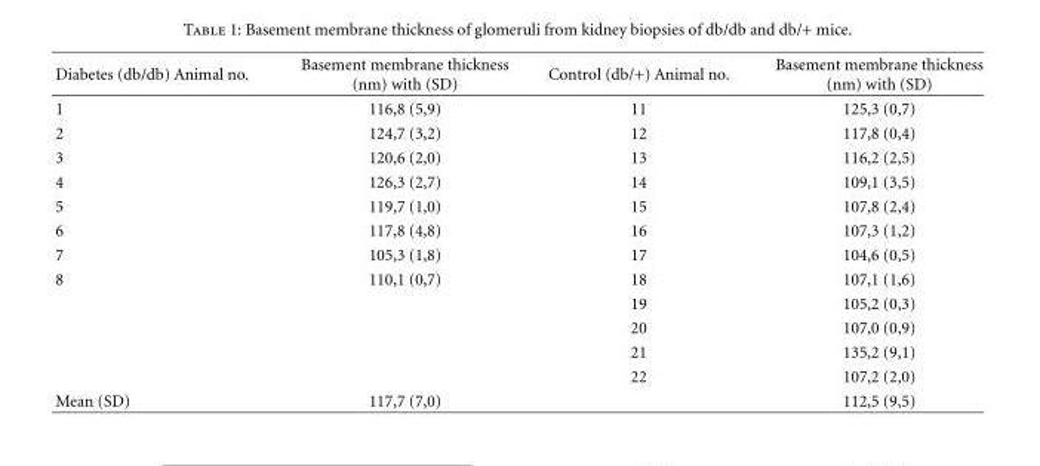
<table><thead><tr><td>Diabetes (db/db) Animal no.</td><td>Basement membrane thickness (nm) with (SD)</td><td>Control (db/+) Animal no.</td><td>Basement membrane thickness (nm) with (SD)</td></tr></thead><tbody><tr><td>1</td><td>116,8 (5,9)</td><td>11</td><td>125,3 (0,7)</td></tr><tr><td>2</td><td>124,7 (3,2)</td><td>12</td><td>117,8 (0,4)</td></tr><tr><td>3</td><td>120,6 (2,0)</td><td>13</td><td>116,2 (2,5)</td></tr><tr><td>4</td><td>126,3 (2,7)</td><td>14</td><td>109,1 (3,5)</td></tr><tr><td>5</td><td>119,7 (1,0)</td><td>15</td><td>107,8 (2,4)</td></tr><tr><td>6</td><td>117,8 (4,8)</td><td>16</td><td>107,3 (1,2)</td></tr><tr><td>7</td><td>105,3 (1,8)</td><td>17</td><td>104,6 (0,5)</td></tr><tr><td rowspan="5">8</td><td>110,1 (0,7)</td><td>18</td><td>107,1 (1,6)</td></tr><tr><td></td><td>19</td><td>105,2 (0,3)</td></tr><tr><td></td><td>20</td><td>107,0 (0,9)</td></tr><tr><td></td><td>21</td><td>135,2 (9,1)</td></tr><tr><td></td><td>22</td><td>107,2 (2,0)</td></tr><tr><td>Mean (SD)</td><td>117,7 (7,0)</td><td></td><td>112,5 (9,5)</td></tr></tbody></table>